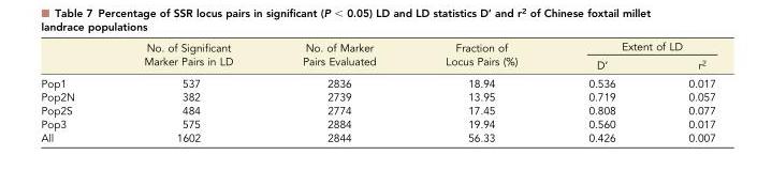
<table><thead><tr><td rowspan="2"></td><td rowspan="2">No. of Significant Marker Pairs in LD</td><td rowspan="2">No. of Marker Pairs Evaluated</td><td rowspan="2">Fraction of Locus Pairs (%)</td><td colspan="2">Extent of LD</td></tr><tr><td>D’</td><td>r<sup>2</sup></td></tr></thead><tbody><tr><td>Pop1</td><td>537</td><td>2836</td><td>18.94</td><td>0.536</td><td>0.017</td></tr><tr><td>Pop2N</td><td>382</td><td>2739</td><td>13.95</td><td>0.719</td><td>0.057</td></tr><tr><td>Pop2S</td><td>484</td><td>2774</td><td>17.45</td><td>0.808</td><td>0.077</td></tr><tr><td>Pop3</td><td>575</td><td>2884</td><td>19.94</td><td>0.560</td><td>0.017</td></tr><tr><td>All</td><td>1602</td><td>2844</td><td>56.33</td><td>0.426</td><td>0.007</td></tr></tbody></table>